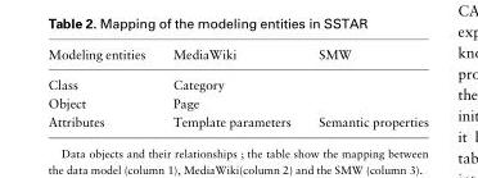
<table><thead><tr><td>Modeling entities</td><td>MediaWiki</td><td>SMW</td></tr></thead><tbody><tr><td>Class</td><td>Category</td><td></td></tr><tr><td>Object</td><td>Page</td><td></td></tr><tr><td>Attributes</td><td>Template parameters</td><td>Semantic properties</td></tr></tbody></table>